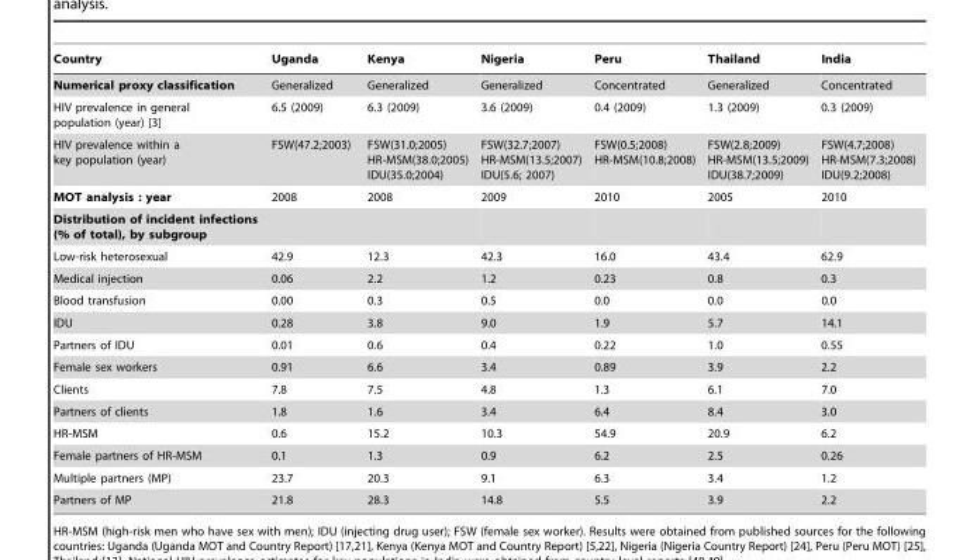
<table><thead><tr><td>Country</td><td>Uganda</td><td>Kenya</td><td>Nigeria</td><td>Peru</td><td>Thailand</td><td>India</td></tr></thead><tbody><tr><td>Numerical proxy classification</td><td>Generalized</td><td>Generalized</td><td>Generalized</td><td>Concentrated</td><td>Generalized</td><td>Concentrated</td></tr><tr><td>HIV prevalence in general population (year) [3]</td><td>6.5 (2009)</td><td>6.3 (2009)</td><td>3.6 (2009)</td><td>0.4 (2009)</td><td>1.3 (2009)</td><td>0.3 (2009)</td></tr><tr><td>HIV prevalence within a key population (year)</td><td>FSW(47.2;2003)</td><td>FSW(31.0;2005) HR-MSM(38.0;2005) IDU(35.0;2004)</td><td>FSW(32.7;2007) HR-MSM(13.5;2007) IDU(5.6; 2007)</td><td>FSW(0.5;2008) HR-MSM(10.8;2008)</td><td>FSW(2.8;2009) HR-MSM(13.5;2009) IDU(38.7;2009)</td><td>FSW(4.7;2008) HR-MSM(7.3;2008) IDU(9.2;2008)</td></tr><tr><td>MOT analysis : year</td><td>2008</td><td>2008</td><td>2009</td><td>2010</td><td>2005</td><td>2010</td></tr><tr><td colspan="7">Distribution of incident infections (% of total), by subgroup</td></tr><tr><td>Low-risk heterosexual</td><td>42.9</td><td>12.3</td><td>42.3</td><td>16.0</td><td>43.4</td><td>62.9</td></tr><tr><td>Medical injection</td><td>0.06</td><td>2.2</td><td>1.2</td><td>0.23</td><td>0.8</td><td>0.3</td></tr><tr><td>Blood transfusion</td><td>0.00</td><td>0.3</td><td>0.5</td><td>0.0</td><td>0.0</td><td>0.0</td></tr><tr><td>IDU</td><td>0.28</td><td>3.8</td><td>9.0</td><td>1.9</td><td>5.7</td><td>14.1</td></tr><tr><td>Partners of IDU</td><td>0.01</td><td>0.6</td><td>0.4</td><td>0.22</td><td>1.0</td><td>0.55</td></tr><tr><td>Female sex workers</td><td>0.91</td><td>6.6</td><td>3.4</td><td>0.89</td><td>3.9</td><td>2.2</td></tr><tr><td>Clients</td><td>7.8</td><td>7.5</td><td>4.8</td><td>1.3</td><td>6.1</td><td>7.0</td></tr><tr><td>Partners of clients</td><td>1.8</td><td>1.6</td><td>3.4</td><td>6.4</td><td>8.4</td><td>3.0</td></tr><tr><td>HR-MSM</td><td>0.6</td><td>15.2</td><td>10.3</td><td>54.9</td><td>20.9</td><td>6.2</td></tr><tr><td>Female partners of HR-MSM</td><td>0.1</td><td>1.3</td><td>0.9</td><td>6.2</td><td>2.5</td><td>0.26</td></tr><tr><td>Multiple partners (MP)</td><td>23.7</td><td>20.3</td><td>9.1</td><td>6.3</td><td>3.4</td><td>1.2</td></tr><tr><td>Partners of MP</td><td>21.8</td><td>28.3</td><td>14.8</td><td>5.5</td><td>3.9</td><td>2.2</td></tr></tbody></table>